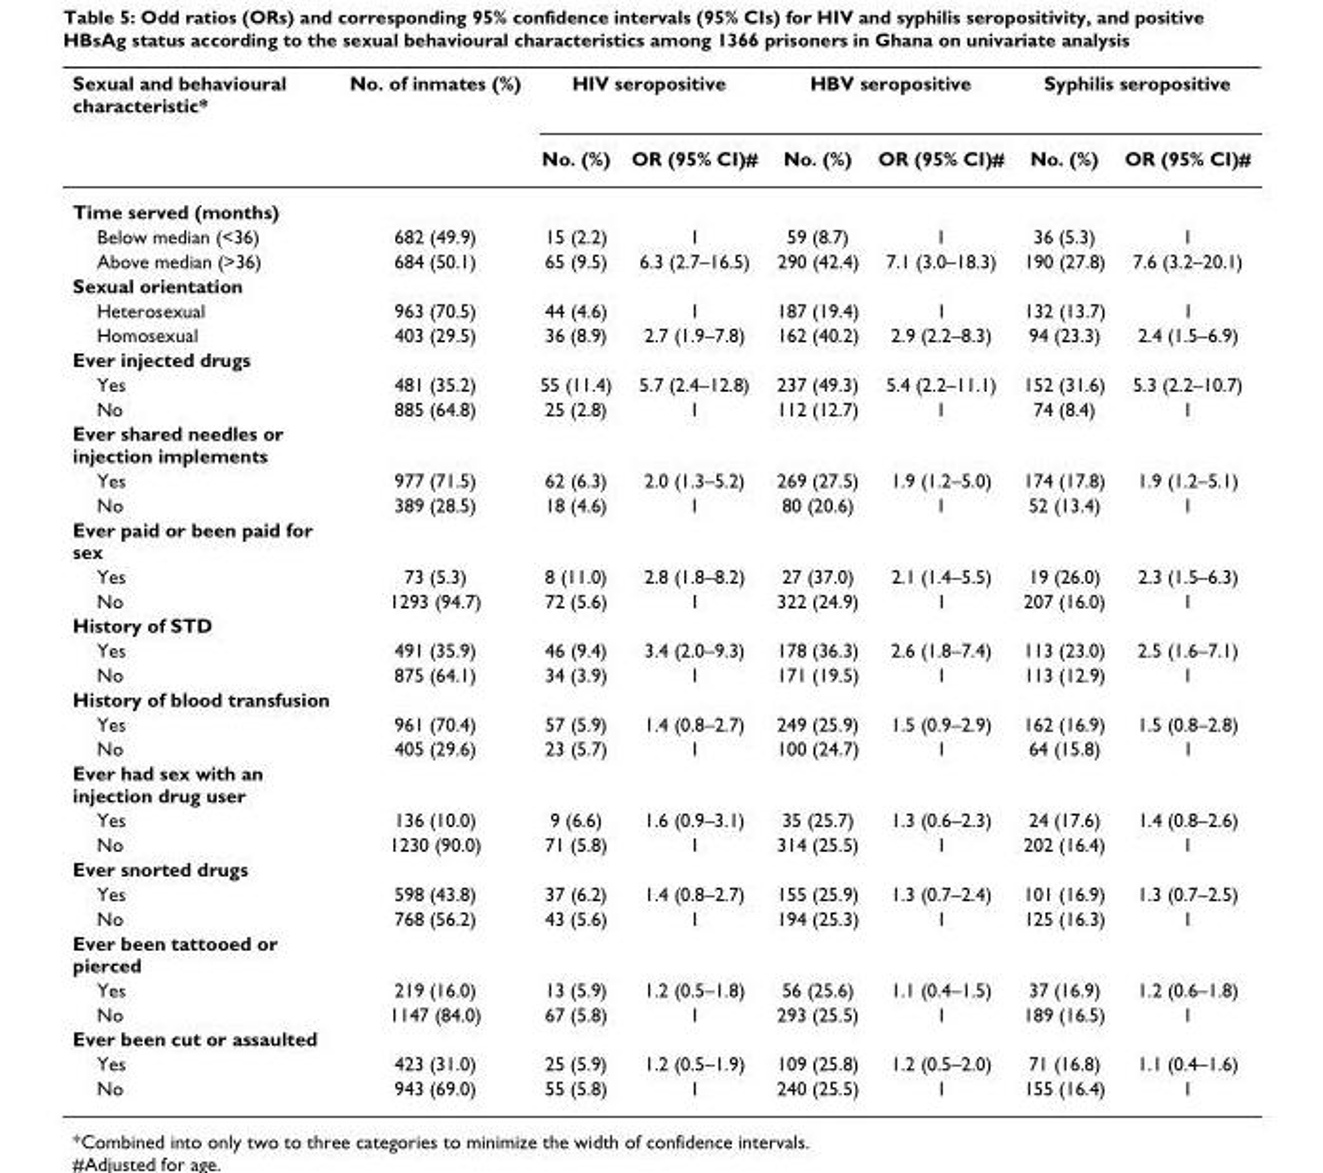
<table><thead><tr><td rowspan="2">Sexual and behavioural characteristic*</td><td rowspan="2">No. of inmates (%)</td><td colspan="2">HIV seropositive</td><td colspan="2">HBV seropositive</td><td colspan="2">Syphilis seropositive</td></tr><tr><td>No. (%)</td><td>OR (95% CI)#</td><td>No. (%)</td><td>OR (95% CI)#</td><td>No. (%)</td><td>OR (95% CI)#</td></tr></thead><tbody><tr><td colspan="8">Time served (months)</td></tr><tr><td>Below median (&lt;36)</td><td>682 (49.9)</td><td>15 (2.2)</td><td>1</td><td>59 (8.7)</td><td>1</td><td>36 (5.3)</td><td>1</td></tr><tr><td>Above median (&gt;36)</td><td>684 (50.1)</td><td>65 (9.5)</td><td>6.3 (2.7–16.5)</td><td>290 (42.4)</td><td>7.1 (3.0–18.3)</td><td>190 (27.8)</td><td>7.6 (3.2–20.1)</td></tr><tr><td colspan="8">Sexual orientation</td></tr><tr><td>Heterosexual</td><td>963 (70.5)</td><td>44 (4.6)</td><td>1</td><td>187 (19.4)</td><td>1</td><td>132 (13.7)</td><td>1</td></tr><tr><td>Homosexual</td><td>403 (29.5)</td><td>36 (8.9)</td><td>2.7 (1.9–7.8)</td><td>162 (40.2)</td><td>2.9 (2.2–8.3)</td><td>94 (23.3)</td><td>2.4 (1.5–6.9)</td></tr><tr><td colspan="8">Ever injected drugs</td></tr><tr><td>Yes</td><td>481 (35.2)</td><td>55 (11.4)</td><td>5.7 (2.4–12.8)</td><td>237 (49.3)</td><td>5.4 (2.2–11.1)</td><td>152 (31.6)</td><td>5.3 (2.2–10.7)</td></tr><tr><td>No</td><td>885 (64.8)</td><td>25 (2.8)</td><td>1</td><td>112 (12.7)</td><td>1</td><td>74 (8.4)</td><td>1</td></tr><tr><td colspan="8">Ever shared needles or injection implements</td></tr><tr><td>Yes</td><td>977 (71.5)</td><td>62 (6.3)</td><td>2.0 (1.3–5.2)</td><td>269 (27.5)</td><td>1.9 (1.2–5.0)</td><td>174 (17.8)</td><td>1.9 (1.2–5.1)</td></tr><tr><td>No</td><td>389 (28.5)</td><td>18 (4.6)</td><td>1</td><td>80 (20.6)</td><td>1</td><td>52 (13.4)</td><td>1</td></tr><tr><td colspan="8">Ever paid or been paid for sex</td></tr><tr><td>Yes</td><td>73 (5.3)</td><td>8 (11.0)</td><td>2.8 (1.8–8.2)</td><td>27 (37.0)</td><td>2.1 (1.4–5.5)</td><td>19 (26.0)</td><td>2.3 (1.5–6.3)</td></tr><tr><td>No</td><td>1293 (94.7)</td><td>72 (5.6)</td><td>1</td><td>322 (24.9)</td><td>1</td><td>207 (16.0)</td><td>1</td></tr><tr><td colspan="8">History of STD</td></tr><tr><td>Yes</td><td>491 (35.9)</td><td>46 (9.4)</td><td>3.4 (2.0–9.3)</td><td>178 (36.3)</td><td>2.6 (1.8–7.4)</td><td>113 (23.0)</td><td>2.5 (1.6–7.1)</td></tr><tr><td>No</td><td>875 (64.1)</td><td>34 (3.9)</td><td>1</td><td>171 (19.5)</td><td>1</td><td>113 (12.9)</td><td>1</td></tr><tr><td colspan="8">History of blood transfusion</td></tr><tr><td>Yes</td><td>961 (70.4)</td><td>57 (5.9)</td><td>1.4 (0.8–2.7)</td><td>249 (25.9)</td><td>1.5 (0.9–2.9)</td><td>162 (16.9)</td><td>1.5 (0.8–2.8)</td></tr><tr><td>No</td><td>405 (29.6)</td><td>23 (5.7)</td><td>1</td><td>100 (24.7)</td><td>1</td><td>64 (15.8)</td><td>1</td></tr><tr><td colspan="8">Ever had sex with an injection drug user</td></tr><tr><td>Yes</td><td>136 (10.0)</td><td>9 (6.6)</td><td>1.6 (0.9–3.1)</td><td>35 (25.7)</td><td>1.3 (0.6–2.3)</td><td>24 (17.6)</td><td>1.4 (0.8–2.6)</td></tr><tr><td>No</td><td>1230 (90.0)</td><td>71 (5.8)</td><td>1</td><td>314 (25.5)</td><td>1</td><td>202 (16.4)</td><td>1</td></tr><tr><td colspan="8">Ever snorted drugs</td></tr><tr><td>Yes</td><td>598 (43.8)</td><td>37 (6.2)</td><td>1.4 (0.8–2.7)</td><td>155 (25.9)</td><td>1.3 (0.7–2.4)</td><td>101 (16.9)</td><td>1.3 (0.7–2.5)</td></tr><tr><td>No</td><td>768 (56.2)</td><td>43 (5.6)</td><td>1</td><td>194 (25.3)</td><td>1</td><td>125 (16.3)</td><td>1</td></tr><tr><td colspan="8">Ever been tattooed or pierced</td></tr><tr><td>Yes</td><td>219 (16.0)</td><td>13 (5.9)</td><td>1.2 (0.5–1.8)</td><td>56 (25.6)</td><td>1.1 (0.4–1.5)</td><td>37 (16.9)</td><td>1.2 (0.6–1.8)</td></tr><tr><td>No</td><td>1147 (84.0)</td><td>67 (5.8)</td><td>1</td><td>293 (25.5)</td><td>1</td><td>189 (16.5)</td><td>1</td></tr><tr><td colspan="8">Ever been cut or assaulted</td></tr><tr><td>Yes</td><td>423 (31.0)</td><td>25 (5.9)</td><td>1.2 (0.5–1.9)</td><td>109 (25.8)</td><td>1.2 (0.5–2.0)</td><td>71 (16.8)</td><td>1.1 (0.4–1.6)</td></tr><tr><td>No</td><td>943 (69.0)</td><td>55 (5.8)</td><td>1</td><td>240 (25.5)</td><td>1</td><td>155 (16.4)</td><td>1</td></tr></tbody></table>